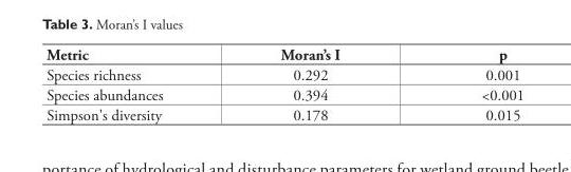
<table><thead><tr><td>Metric</td><td>Moran’s I</td><td>p</td></tr></thead><tbody><tr><td>Species richness</td><td>0.292</td><td>0.001</td></tr><tr><td>Species abundances</td><td>0.394</td><td>&lt;0.001</td></tr><tr><td>Simpson&#x27;s diversity</td><td>0.178</td><td>0.015</td></tr></tbody></table>